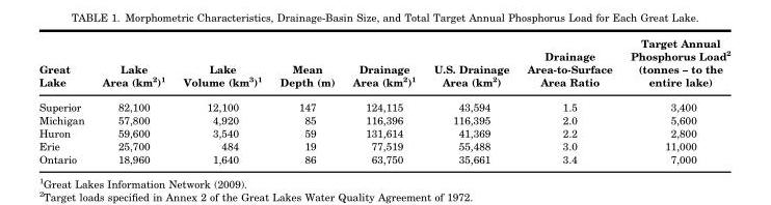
<table><thead><tr><td>Great Lake</td><td>Lake Area (km<sup>2</sup>)<sup>1</sup></td><td>Lake Volume (km<sup>3</sup>)<sup>1</sup></td><td>Mean Depth (m)</td><td>Drainage Area (km<sup>2</sup>)<sup>1</sup></td><td>U.S. Drainage Area (km<sup>2</sup>)</td><td>Drainage Area-to-Surface Area Ratio</td><td>Target Annual Phosphorus Load<sup>2</sup> (tonnes – to the entire lake)</td></tr></thead><tbody><tr><td>Superior</td><td>82,100</td><td>12,100</td><td>147</td><td>124,115</td><td>43,594</td><td>1.5</td><td>3,400</td></tr><tr><td>Michigan</td><td>57,800</td><td>4,920</td><td>85</td><td>116,396</td><td>116,395</td><td>2.0</td><td>5,600</td></tr><tr><td>Huron</td><td>59,600</td><td>3,540</td><td>59</td><td>131,614</td><td>41,369</td><td>2.2</td><td>2,800</td></tr><tr><td>Erie</td><td>25,700</td><td>484</td><td>19</td><td>77,519</td><td>55,488</td><td>3.0</td><td>11,000</td></tr><tr><td>Ontario</td><td>18,960</td><td>1,640</td><td>86</td><td>63,750</td><td>35,661</td><td>3.4</td><td>7,000</td></tr></tbody></table>